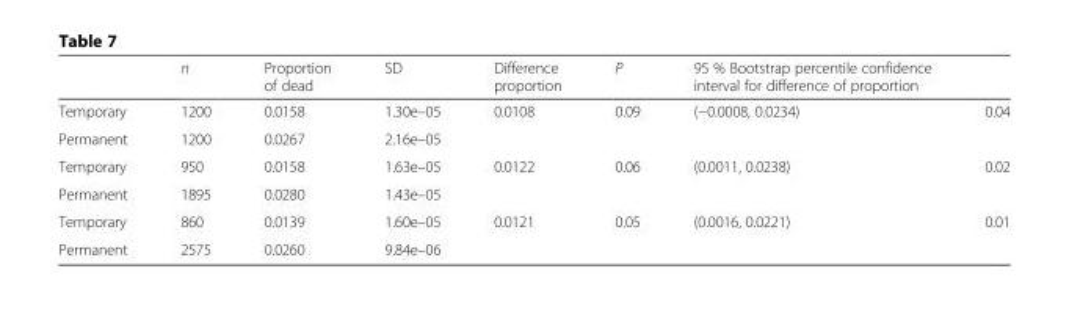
<table><thead><tr><td></td><td>n</td><td>Proportion of dead</td><td>SD</td><td>Difference proportion</td><td>P</td><td>95 % Bootstrap percentile confidence interval for difference of proportion</td><td></td></tr></thead><tbody><tr><td>Temporary</td><td>1200</td><td>0.0158</td><td>1.30e–05</td><td rowspan="2">0.0108</td><td rowspan="2">0.09</td><td rowspan="2">(−0.0008, 0.0234)</td><td rowspan="2">0.04</td></tr><tr><td>Permanent</td><td>1200</td><td>0.0267</td><td>2.16e–05</td></tr><tr><td>Temporary</td><td>950</td><td>0.0158</td><td>1.63e–05</td><td rowspan="2">0.0122</td><td rowspan="2">0.06</td><td rowspan="2">(0.0011, 0.0238)</td><td rowspan="2">0.02</td></tr><tr><td>Permanent</td><td>1895</td><td>0.0280</td><td>1.43e–05</td></tr><tr><td>Temporary</td><td>860</td><td>0.0139</td><td>1.60e–05</td><td rowspan="2">0.0121</td><td rowspan="2">0.05</td><td rowspan="2">(0.0016, 0.0221)</td><td rowspan="2">0.01</td></tr><tr><td>Permanent</td><td>2575</td><td>0.0260</td><td>9.84e–06</td></tr></tbody></table>